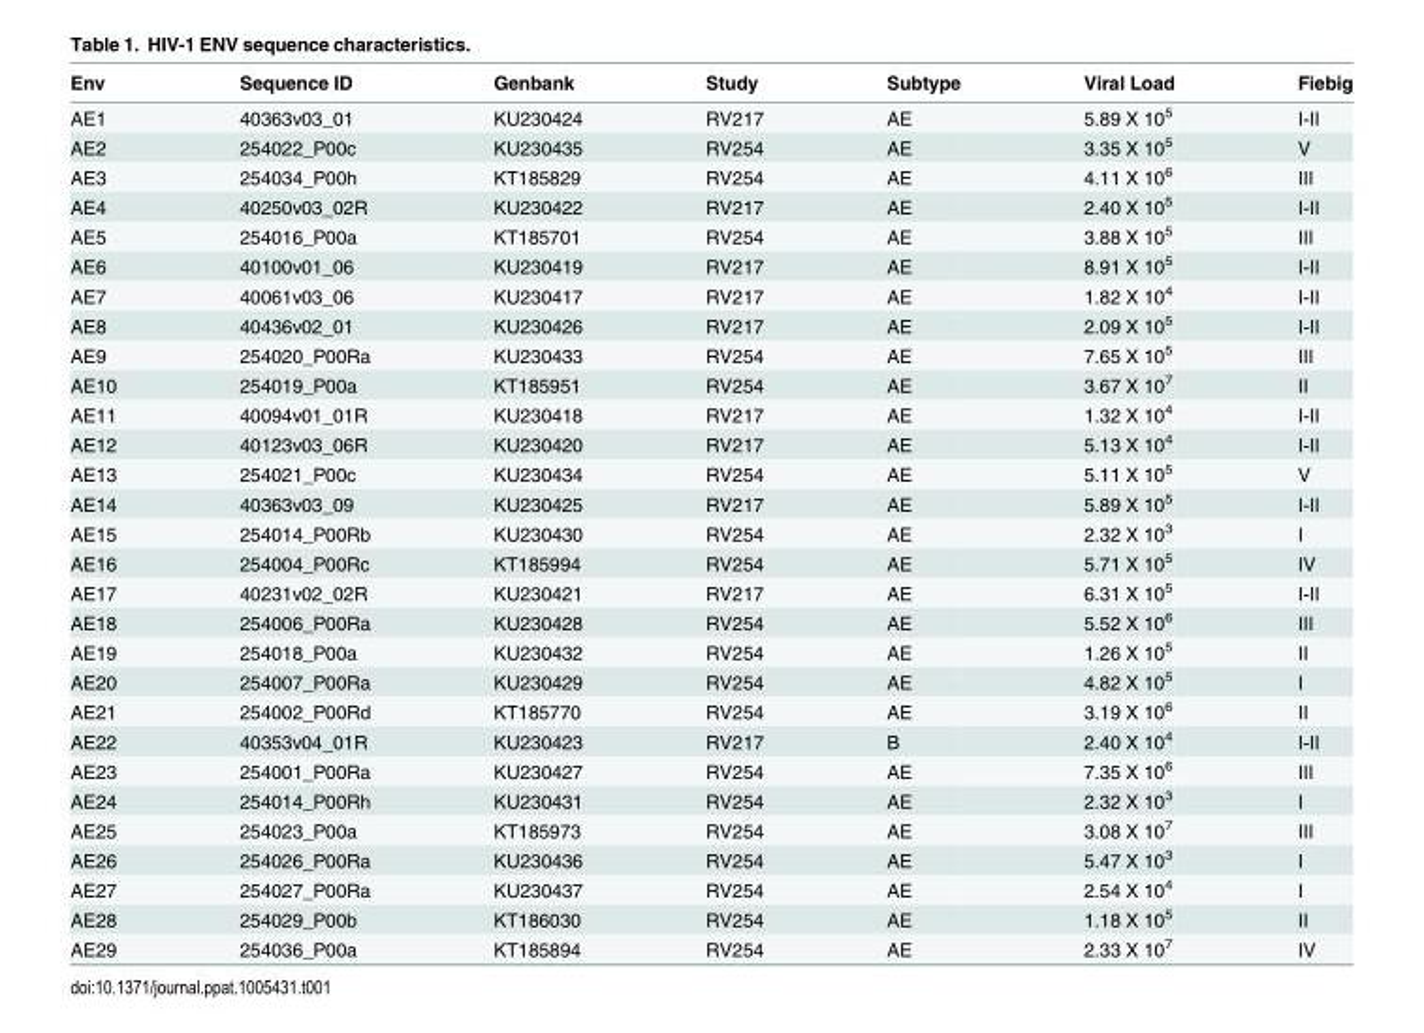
<table><thead><tr><td>Env</td><td>Sequence ID</td><td>Genbank</td><td>Study</td><td>Subtype</td><td>Viral Load</td><td>Fiebig</td></tr></thead><tbody><tr><td>AE1</td><td>40363v03_01</td><td>KU230424</td><td>RV217</td><td>AE</td><td>5.89 X 10<sup>5</sup></td><td>I-II</td></tr><tr><td>AE2</td><td>254022_P00c</td><td>KU230435</td><td>RV254</td><td>AE</td><td>3.35 X 10<sup>5</sup></td><td>V</td></tr><tr><td>AE3</td><td>254034_P00h</td><td>KT185829</td><td>RV254</td><td>AE</td><td>4.11 X 10<sup>6</sup></td><td>III</td></tr><tr><td>AE4</td><td>40250v03_02R</td><td>KU230422</td><td>RV217</td><td>AE</td><td>2.40 X 10<sup>5</sup></td><td>I-II</td></tr><tr><td>AE5</td><td>254016_P00a</td><td>KT185701</td><td>RV254</td><td>AE</td><td>3.88 X 10<sup>5</sup></td><td>III</td></tr><tr><td>AE6</td><td>40100v01_06</td><td>KU230419</td><td>RV217</td><td>AE</td><td>8.91 X 10<sup>5</sup></td><td>I-II</td></tr><tr><td>AE7</td><td>40061v03_06</td><td>KU230417</td><td>RV217</td><td>AE</td><td>1.82 X 10<sup>4</sup></td><td>I-II</td></tr><tr><td>AE8</td><td>40436v02_01</td><td>KU230426</td><td>RV217</td><td>AE</td><td>2.09 X 10<sup>5</sup></td><td>I-II</td></tr><tr><td>AE9</td><td>254020_P00Ra</td><td>KU230433</td><td>RV254</td><td>AE</td><td>7.65 X 10<sup>5</sup></td><td>III</td></tr><tr><td>AE10</td><td>254019_P00a</td><td>KT185951</td><td>RV254</td><td>AE</td><td>3.67 X 10<sup>7</sup></td><td>II</td></tr><tr><td>AE11</td><td>40094v01_01R</td><td>KU230418</td><td>RV217</td><td>AE</td><td>1.32 X 10<sup>4</sup></td><td>I-II</td></tr><tr><td>AE12</td><td>40123v03_06R</td><td>KU230420</td><td>RV217</td><td>AE</td><td>5.13 X 10<sup>4</sup></td><td>I-II</td></tr><tr><td>AE13</td><td>254021_P00c</td><td>KU230434</td><td>RV254</td><td>AE</td><td>5.11 X 10<sup>5</sup></td><td>V</td></tr><tr><td>AE14</td><td>40363v03_09</td><td>KU230425</td><td>RV217</td><td>AE</td><td>5.89 X 10<sup>5</sup></td><td>I-II</td></tr><tr><td>AE15</td><td>254014_P00Rb</td><td>KU230430</td><td>RV254</td><td>AE</td><td>2.32 X 10<sup>3</sup></td><td>I</td></tr><tr><td>AE16</td><td>254004_P00Rc</td><td>KT185994</td><td>RV254</td><td>AE</td><td>5.71 X 10<sup>5</sup></td><td>IV</td></tr><tr><td>AE17</td><td>40231v02_02R</td><td>KU230421</td><td>RV217</td><td>AE</td><td>6.31 X 10<sup>5</sup></td><td>I-II</td></tr><tr><td>AE18</td><td>254006_P00Ra</td><td>KU230428</td><td>RV254</td><td>AE</td><td>5.52 X 10<sup>6</sup></td><td>III</td></tr><tr><td>AE19</td><td>254018_P00a</td><td>KU230432</td><td>RV254</td><td>AE</td><td>1.26 X 10<sup>5</sup></td><td>II</td></tr><tr><td>AE20</td><td>254007_P00Ra</td><td>KU230429</td><td>RV254</td><td>AE</td><td>4.82 X 10<sup>5</sup></td><td>I</td></tr><tr><td>AE21</td><td>254002_P00Rd</td><td>KT185770</td><td>RV254</td><td>AE</td><td>3.19 X 10<sup>6</sup></td><td>II</td></tr><tr><td>AE22</td><td>40353v04_01R</td><td>KU230423</td><td>RV217</td><td>B</td><td>2.40 X 10<sup>4</sup></td><td>I-II</td></tr><tr><td>AE23</td><td>254001_P00Ra</td><td>KU230427</td><td>RV254</td><td>AE</td><td>7.35 X 10<sup>6</sup></td><td>III</td></tr><tr><td>AE24</td><td>254014_P00Rh</td><td>KU230431</td><td>RV254</td><td>AE</td><td>2.32 X 10<sup>3</sup></td><td>I</td></tr><tr><td>AE25</td><td>254023_P00a</td><td>KT185973</td><td>RV254</td><td>AE</td><td>3.08 X 10<sup>7</sup></td><td>III</td></tr><tr><td>AE26</td><td>254026_P00Ra</td><td>KU230436</td><td>RV254</td><td>AE</td><td>5.47 X 10<sup>3</sup></td><td>I</td></tr><tr><td>AE27</td><td>254027_P00Ra</td><td>KU230437</td><td>RV254</td><td>AE</td><td>2.54 X 10<sup>4</sup></td><td>I</td></tr><tr><td>AE28</td><td>254029_P00b</td><td>KT186030</td><td>RV254</td><td>AE</td><td>1.18 X 10<sup>5</sup></td><td>II</td></tr><tr><td>AE29</td><td>254036_P00a</td><td>KT185894</td><td>RV254</td><td>AE</td><td>2.33 X 10<sup>7</sup></td><td>IV</td></tr></tbody></table>